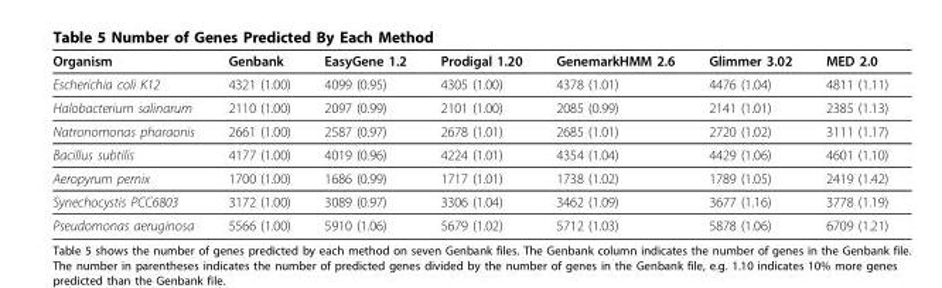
<table><thead><tr><td>Organism</td><td>Genbank</td><td>EasyGene 1.2</td><td>Prodigal 1.20</td><td>GenemarkHMM 2.6</td><td>Glimmer 3.02</td><td>MED 2.0</td></tr></thead><tbody><tr><td>Escherichia coli K12</td><td>4321 (1.00)</td><td>4099 (0.95)</td><td>4305 (1.00)</td><td>4378 (1.01)</td><td>4476 (1.04)</td><td>4811 (1.11)</td></tr><tr><td>Halobacterium salinarum</td><td>2110 (1.00)</td><td>2097 (0.99)</td><td>2101 (1.00)</td><td>2085 (0.99)</td><td>2141 (1.01)</td><td>2385 (1.13)</td></tr><tr><td>Natronomonas pharaonis</td><td>2661 (1.00)</td><td>2587 (0.97)</td><td>2678 (1.01)</td><td>2685 (1.01)</td><td>2720 (1.02)</td><td>3111 (1.17)</td></tr><tr><td>Bacillus subtilis</td><td>4177 (1.00)</td><td>4019 (0.96)</td><td>4224 (1.01)</td><td>4354 (1.04)</td><td>4429 (1.06)</td><td>4601 (1.10)</td></tr><tr><td>Aeropyrum pernix</td><td>1700 (1.00)</td><td>1686 (0.99)</td><td>1717 (1.01)</td><td>1738 (1.02)</td><td>1789 (1.05)</td><td>2419 (1.42)</td></tr><tr><td>Synechocystis PCC6803</td><td>3172 (1.00)</td><td>3089 (0.97)</td><td>3306 (1.04)</td><td>3462 (1.09)</td><td>3677 (1.16)</td><td>3778 (1.19)</td></tr><tr><td>Pseudomonas aeruginosa</td><td>5566 (1.00)</td><td>5910 (1.06)</td><td>5679 (1.02)</td><td>5712 (1.03)</td><td>5878 (1.06)</td><td>6709 (1.21)</td></tr></tbody></table>